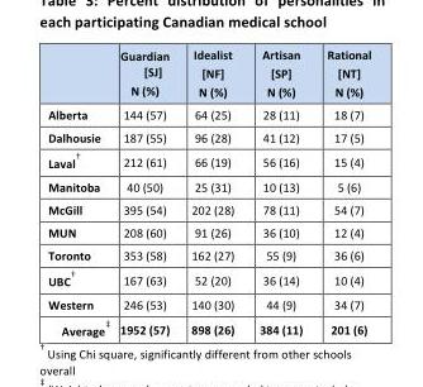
<table><thead><tr><td></td><td>Guardian [SJ] N (%)</td><td>Idealist [NF] N (%)</td><td>Artisan [SP] N (%)</td><td>Rational [NT] N (%)</td></tr></thead><tbody><tr><td>Alberta</td><td>144 (57)</td><td>64 (25)</td><td>28 (11)</td><td>18 (7)</td></tr><tr><td>Dalhousie</td><td>187 (55)</td><td>96 (28)</td><td>41 (12)</td><td>17 (5)</td></tr><tr><td>Laval<sup>†</sup></td><td>212 (61)</td><td>66 (19)</td><td>56 (16)</td><td>15 (4)</td></tr><tr><td>Manitoba</td><td>40 (50)</td><td>25 (31)</td><td>10 (13)</td><td>5 (6)</td></tr><tr><td>McGill</td><td>395 (54)</td><td>202 (28)</td><td>78 (11)</td><td>54 (7)</td></tr><tr><td>MUN</td><td>208 (60)</td><td>91 (26)</td><td>36 (10)</td><td>12 (4)</td></tr><tr><td>Toronto</td><td>353 (58)</td><td>162 (27)</td><td>55 (9)</td><td>36 (6)</td></tr><tr><td>UBC<sup>†</sup></td><td>167 (63)</td><td>52 (20)</td><td>36 (14)</td><td>10 (4)</td></tr><tr><td>Western</td><td>246 (53)</td><td>140 (30)</td><td>44 (9)</td><td>34 (7)</td></tr><tr><td>Average<sup>‡</sup></td><td>1952 (57)</td><td>898 (26)</td><td>384 (11)</td><td>201 (6)</td></tr></tbody></table>